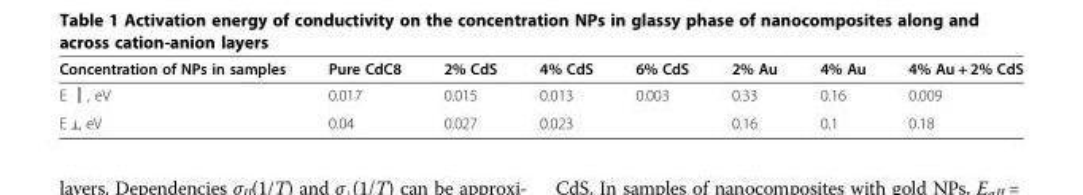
<table><thead><tr><td>Concentration of NPs in samples</td><td>Pure CdC8</td><td>2% CdS</td><td>4% CdS</td><td>6% CdS</td><td>2% Au</td><td>4% Au</td><td>4% Au + 2% CdS</td></tr></thead><tbody><tr><td>Е ║, eV</td><td>0.017</td><td>0.015</td><td>0.013</td><td>0.003</td><td>0.33</td><td>0.16</td><td>0.009</td></tr><tr><td>Е <sub>┴</sub>, eV</td><td>0.04</td><td>0.027</td><td>0.023</td><td></td><td>0.16</td><td>0.1</td><td>0.18</td></tr></tbody></table>